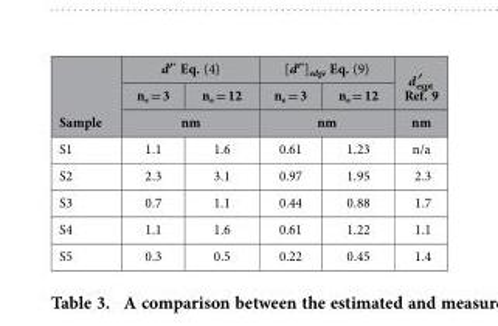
<table><thead><tr><td rowspan="3">Sample</td><td colspan="2">d′* Eq. (4)</td><td colspan="2">[d′*]<sub>edge</sub> Eq. (9)</td><td rowspan="3">′ dexpt Ref. 9 nm</td></tr><tr><td>n<sub>e</sub> = 3</td><td>n<sub>e</sub> = 12</td><td>n<sub>e</sub> = 3</td><td>n<sub>e</sub> = 12</td></tr><tr><td colspan="2">nm</td><td colspan="2">nm</td></tr></thead><tbody><tr><td>S1</td><td>1.1</td><td>1.6</td><td>0.61</td><td>1.23</td><td>n/a</td></tr><tr><td>S2</td><td>2.3</td><td>3.1</td><td>0.97</td><td>1.95</td><td>2.3</td></tr><tr><td>S3</td><td>0.7</td><td>1.1</td><td>0.44</td><td>0.88</td><td>1.7</td></tr><tr><td>S4</td><td>1.1</td><td>1.6</td><td>0.61</td><td>1.22</td><td>1.1</td></tr><tr><td>S5</td><td>0.3</td><td>0.5</td><td>0.22</td><td>0.45</td><td>1.4</td></tr></tbody></table>